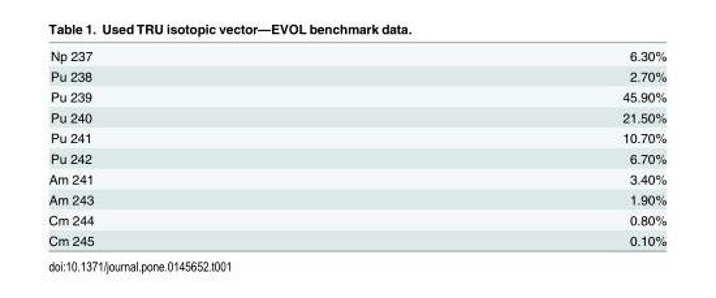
<table><tbody><tr><td>Np 237</td><td>6.30%</td></tr><tr><td>Pu 238</td><td>2.70%</td></tr><tr><td>Pu 239</td><td>45.90%</td></tr><tr><td>Pu 240</td><td>21.50%</td></tr><tr><td>Pu 241</td><td>10.70%</td></tr><tr><td>Pu 242</td><td>6.70%</td></tr><tr><td>Am 241</td><td>3.40%</td></tr><tr><td>Am 243</td><td>1.90%</td></tr><tr><td>Cm 244</td><td>0.80%</td></tr><tr><td>Cm 245</td><td>0.10%</td></tr></tbody></table>